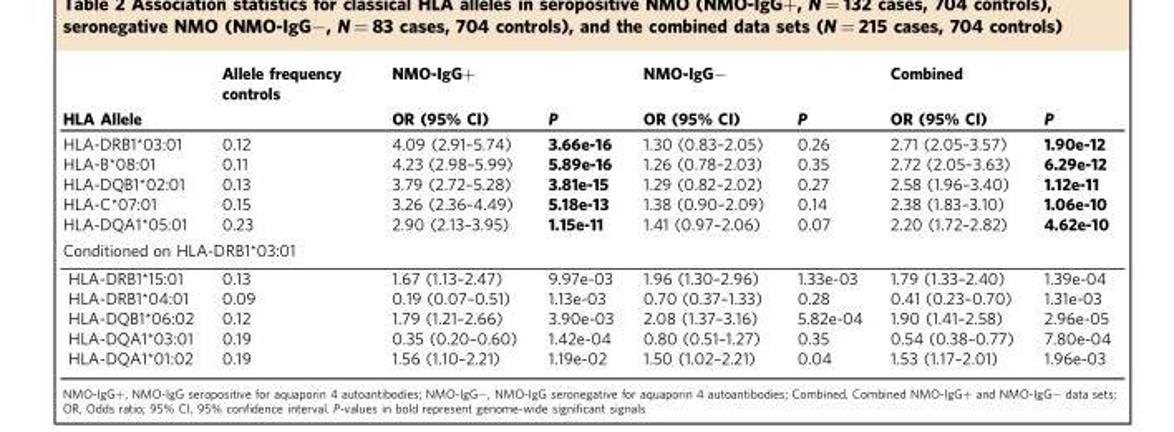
<table><thead><tr><td rowspan="2">HLA Allele</td><td rowspan="2">Allele frequency controls</td><td colspan="2">NMO-IgG+</td><td colspan="2">NMO-IgG−</td><td colspan="2">Combined</td></tr><tr><td>OR (95% CI)</td><td>P</td><td>OR (95% CI)</td><td>P</td><td>OR (95% CI)</td><td>P</td></tr></thead><tbody><tr><td>HLA-DRB1*03:01</td><td>0.12</td><td>4.09 (2.91–5.74)</td><td>3.66e-16</td><td>1.30 (0.83–2.05)</td><td>0.26</td><td>2.71 (2.05–3.57)</td><td>1.90e-12</td></tr><tr><td>HLA-B*08:01</td><td>0.11</td><td>4.23 (2.98–5.99)</td><td>5.89e-16</td><td>1.26 (0.78–2.03)</td><td>0.35</td><td>2.72 (2.05–3.63)</td><td>6.29e-12</td></tr><tr><td>HLA-DQB1*02:01</td><td>0.13</td><td>3.79 (2.72–5.28)</td><td>3.81e-15</td><td>1.29 (0.82–2.02)</td><td>0.27</td><td>2.58 (1.96–3.40)</td><td>1.12e-11</td></tr><tr><td>HLA-C*07:01</td><td>0.15</td><td>3.26 (2.36–4.49)</td><td>5.18e-13</td><td>1.38 (0.90–2.09)</td><td>0.14</td><td>2.38 (1.83–3.10)</td><td>1.06e-10</td></tr><tr><td>HLA-DQA1*05:01</td><td>0.23</td><td>2.90 (2.13–3.95)</td><td>1.15e-11</td><td>1.41 (0.97–2.06)</td><td>0.07</td><td>2.20 (1.72–2.82)</td><td>4.62e-10</td></tr><tr><td colspan="8">Conditioned on HLA-DRB1*03:01</td></tr><tr><td>HLA-DRB1*15:01</td><td>0.13</td><td>1.67 (1.13–2.47)</td><td>9.97e-03</td><td>1.96 (1.30–2.96)</td><td>1.33e-03</td><td>1.79 (1.33–2.40)</td><td>1.39e-04</td></tr><tr><td>HLA-DRB1*04:01</td><td>0.09</td><td>0.19 (0.07–0.51)</td><td>1.13e-03</td><td>0.70 (0.37–1.33)</td><td>0.28</td><td>0.41 (0.23–0.70)</td><td>1.31e-03</td></tr><tr><td>HLA-DQB1*06:02</td><td>0.12</td><td>1.79 (1.21–2.66)</td><td>3.90e-03</td><td>2.08 (1.37–3.16)</td><td>5.82e-04</td><td>1.90 (1.41–2.58)</td><td>2.96e-05</td></tr><tr><td>HLA-DQA1*03:01</td><td>0.19</td><td>0.35 (0.20–0.60)</td><td>1.42e-04</td><td>0.80 (0.51–1.27)</td><td>0.35</td><td>0.54 (0.38–0.77)</td><td>7.80e-04</td></tr><tr><td>HLA-DQA1*01:02</td><td>0.19</td><td>1.56 (1.10–2.21)</td><td>1.19e-02</td><td>1.50 (1.02–2.21)</td><td>0.04</td><td>1.53 (1.17–2.01)</td><td>1.96e-03</td></tr></tbody></table>